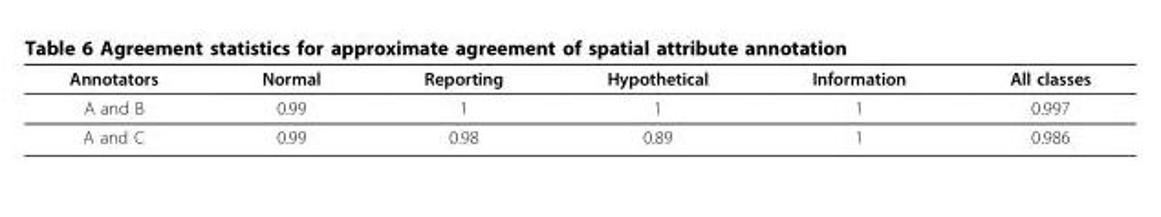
<table><thead><tr><td>Annotators</td><td>Normal</td><td>Reporting</td><td>Hypothetical</td><td>Information</td><td>All classes</td></tr></thead><tbody><tr><td>A and B</td><td>0.99</td><td>1</td><td>1</td><td>1</td><td>0.997</td></tr><tr><td>A and C</td><td>0.99</td><td>0.98</td><td>0.89</td><td>1</td><td>0.986</td></tr></tbody></table>